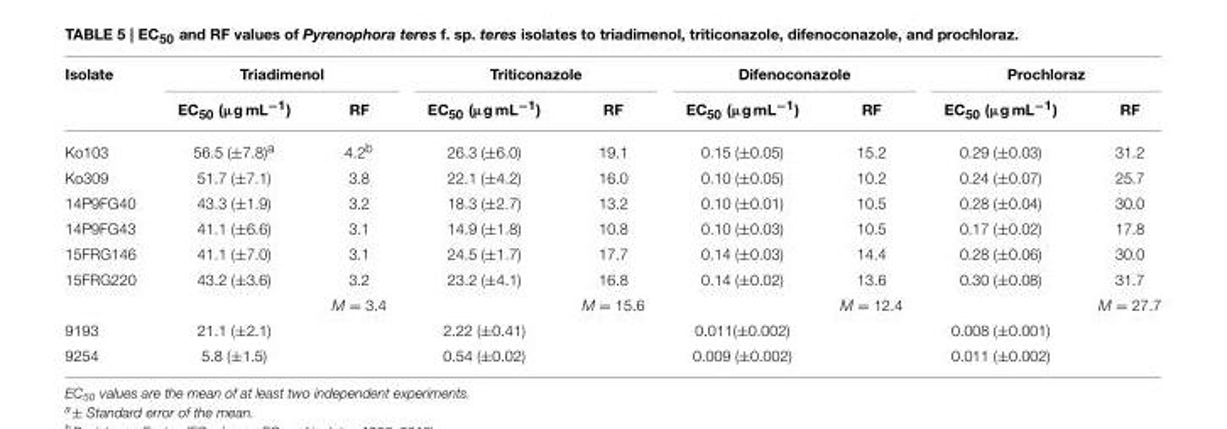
<table><thead><tr><td rowspan="2">Isolate</td><td colspan="2">Triadimenol</td><td colspan="2">Triticonazole</td><td colspan="2">Difenoconazole</td><td colspan="2">Prochloraz</td></tr><tr><td>EC<sub>50</sub> (µg mL<sup>−1</sup>)</td><td>RF</td><td>EC<sub>50</sub> (µg mL<sup>−1</sup>)</td><td>RF</td><td>EC<sub>50</sub> (µg mL<sup>−1</sup>)</td><td>RF</td><td>EC<sub>50</sub> (µg mL<sup>−1</sup>)</td><td>RF</td></tr></thead><tbody><tr><td>Ko103</td><td>56.5 (±7.8)<sup>a</sup></td><td>4.2<sup>b</sup></td><td>26.3 (±6.0)</td><td>19.1</td><td>0.15 (±0.05)</td><td>15.2</td><td>0.29 (±0.03)</td><td>31.2</td></tr><tr><td>Ko309</td><td>51.7 (±7.1)</td><td>3.8</td><td>22.1 (±4.2)</td><td>16.0</td><td>0.10 (±0.05)</td><td>10.2</td><td>0.24 (±0.07)</td><td>25.7</td></tr><tr><td>14P9FG40</td><td>43.3 (±1.9)</td><td>3.2</td><td>18.3 (±2.7)</td><td>13.2</td><td>0.10 (±0.01)</td><td>10.5</td><td>0.28 (±0.04)</td><td>30.0</td></tr><tr><td>14P9FG43</td><td>41.1 (±6.6)</td><td>3.1</td><td>14.9 (±1.8)</td><td>10.8</td><td>0.10 (±0.03)</td><td>10.5</td><td>0.17 (±0.02)</td><td>17.8</td></tr><tr><td>15FRG146</td><td>41.1 (±7.0)</td><td>3.1</td><td>24.5 (±1.7)</td><td>17.7</td><td>0.14 (±0.03)</td><td>14.4</td><td>0.28 (±0.06)</td><td>30.0</td></tr><tr><td rowspan="2">15FRG220</td><td>43.2 (±3.6)</td><td>3.2</td><td>23.2 (±4.1)</td><td>16.8</td><td>0.14 (±0.02)</td><td>13.6</td><td>0.30 (±0.08)</td><td>31.7</td></tr><tr><td></td><td>M = 3.4</td><td></td><td>M = 15.6</td><td></td><td>M = 12.4</td><td></td><td>M = 27.7</td></tr><tr><td>9193</td><td>21.1 (±2.1)</td><td></td><td>2.22 (±0.41)</td><td></td><td>0.011(±0.002)</td><td></td><td>0.008 (±0.001)</td><td></td></tr><tr><td>9254</td><td>5.8 (±1.5)</td><td></td><td>0.54 (±0.02)</td><td></td><td>0.009 (±0.002)</td><td></td><td>0.011 (±0.002)</td><td></td></tr></tbody></table>